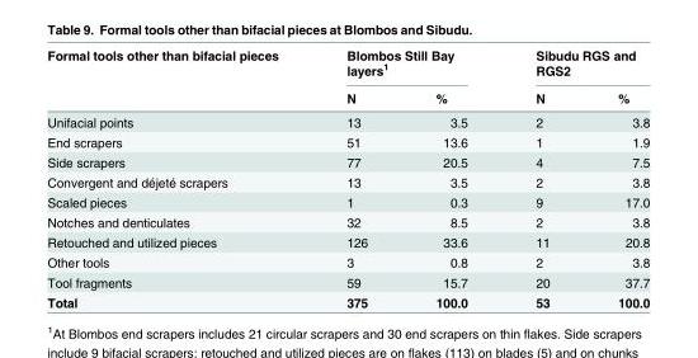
<table><thead><tr><td rowspan="2">Formal tools other than bifacial pieces</td><td colspan="2">Blombos Still Bay layers<sup>1</sup></td><td colspan="2">Sibudu RGS and RGS2</td></tr><tr><td>N</td><td>%</td><td>N</td><td>%</td></tr></thead><tbody><tr><td>Unifacial points</td><td>13</td><td>3.5</td><td>2</td><td>3.8</td></tr><tr><td>End scrapers</td><td>51</td><td>13.6</td><td>1</td><td>1.9</td></tr><tr><td>Side scrapers</td><td>77</td><td>20.5</td><td>4</td><td>7.5</td></tr><tr><td>Convergent and déjeté scrapers</td><td>13</td><td>3.5</td><td>2</td><td>3.8</td></tr><tr><td>Scaled pieces</td><td>1</td><td>0.3</td><td>9</td><td>17.0</td></tr><tr><td>Notches and denticulates</td><td>32</td><td>8.5</td><td>2</td><td>3.8</td></tr><tr><td>Retouched and utilized pieces</td><td>126</td><td>33.6</td><td>11</td><td>20.8</td></tr><tr><td>Other tools</td><td>3</td><td>0.8</td><td>2</td><td>3.8</td></tr><tr><td>Tool fragments</td><td>59</td><td>15.7</td><td>20</td><td>37.7</td></tr><tr><td>Total</td><td>375</td><td>100.0</td><td>53</td><td>100.0</td></tr></tbody></table>